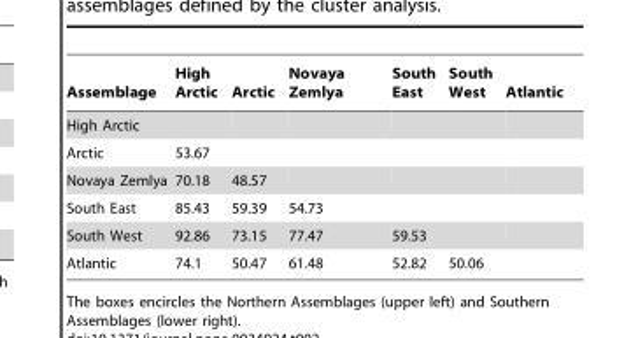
<table><thead><tr><td>Assemblage</td><td>High Arctic</td><td>Arctic</td><td>Novaya Zemlya</td><td>South East</td><td>South West</td><td>Atlantic</td></tr></thead><tbody><tr><td colspan="7">High Arctic</td></tr><tr><td>Arctic</td><td>53.67</td><td></td><td></td><td></td><td></td><td></td></tr><tr><td>Novaya Zemlya</td><td>70.18</td><td>48.57</td><td></td><td></td><td></td><td></td></tr><tr><td>South East</td><td>85.43</td><td>59.39</td><td>54.73</td><td></td><td></td><td></td></tr><tr><td>South West</td><td>92.86</td><td>73.15</td><td>77.47</td><td>59.53</td><td></td><td></td></tr><tr><td>Atlantic</td><td>74.1</td><td>50.47</td><td>61.48</td><td>52.82</td><td>50.06</td><td></td></tr></tbody></table>